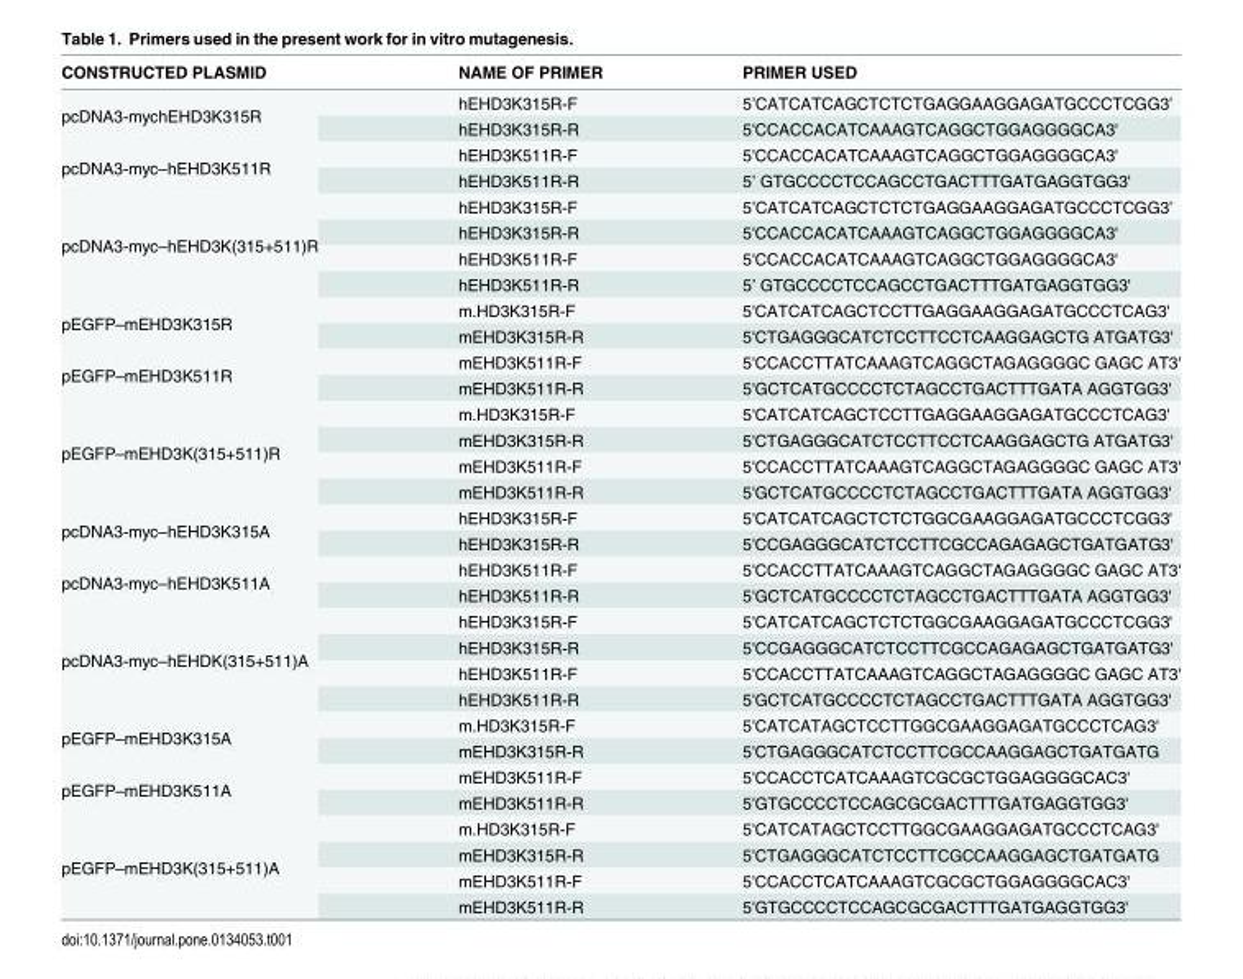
<table><thead><tr><td>CONSTRUCTED PLASMID</td><td>NAME OF PRIMER</td><td>PRIMER USED</td></tr></thead><tbody><tr><td rowspan="2">pcDNA3-mychEHD3K315R</td><td>hEHD3K315R-F</td><td>5’CATCATCAGCTCTCTGAGGAAGGAGATGCCCTCGG3’</td></tr><tr><td>hEHD3K315R-R</td><td>5&#x27;CCACCACATCAAAGTCAGGCTGGAGGGGCA3&#x27;</td></tr><tr><td rowspan="2">pcDNA3-myc–hEHD3K511R</td><td>hEHD3K511R-F</td><td>5&#x27;CCACCACATCAAAGTCAGGCTGGAGGGGCA3&#x27;</td></tr><tr><td>hEHD3K511R-R</td><td>5’ GTGCCCCTCCAGCCTGACTTTGATGAGGTGG3&#x27;</td></tr><tr><td rowspan="4">pcDNA3-myc–hEHD3K(315+511)R</td><td>hEHD3K315R-F</td><td>5’CATCATCAGCTCTCTGAGGAAGGAGATGCCCTCGG3’</td></tr><tr><td>hEHD3K315R-R</td><td>5&#x27;CCACCACATCAAAGTCAGGCTGGAGGGGCA3&#x27;</td></tr><tr><td>hEHD3K511R-F</td><td>5&#x27;CCACCACATCAAAGTCAGGCTGGAGGGGCA3&#x27;</td></tr><tr><td>hEHD3K511R-R</td><td>5’ GTGCCCCTCCAGCCTGACTTTGATGAGGTGG3&#x27;</td></tr><tr><td rowspan="2">pEGFP–mEHD3K315R</td><td>m.HD3K315R-F</td><td>5&#x27;CATCATCAGCTCCTTGAGGAAGGAGATGCCCTCAG3&#x27;</td></tr><tr><td>mEHD3K315R-R</td><td>5&#x27;CTGAGGGCATCTCCTTCCTCAAGGAGCTG ATGATG3&#x27;</td></tr><tr><td rowspan="2">pEGFP–mEHD3K511R</td><td>mEHD3K511R-F</td><td>5&#x27;CCACCTTATCAAAGTCAGGCTAGAGGGGC GAGC AT3&#x27;</td></tr><tr><td>mEHD3K511R-R</td><td>5&#x27;GCTCATGCCCCTCTAGCCTGACTTTGATA AGGTGG3&#x27;</td></tr><tr><td rowspan="4">pEGFP–mEHD3K(315+511)R</td><td>m.HD3K315R-F</td><td>5&#x27;CATCATCAGCTCCTTGAGGAAGGAGATGCCCTCAG3&#x27;</td></tr><tr><td>mEHD3K315R-R</td><td>5&#x27;CTGAGGGCATCTCCTTCCTCAAGGAGCTG ATGATG3&#x27;</td></tr><tr><td>mEHD3K511R-F</td><td>5&#x27;CCACCTTATCAAAGTCAGGCTAGAGGGGC GAGC AT3&#x27;</td></tr><tr><td>mEHD3K511R-R</td><td>5&#x27;GCTCATGCCCCTCTAGCCTGACTTTGATA AGGTGG3&#x27;</td></tr><tr><td rowspan="2">pcDNA3-myc–hEHD3K315A</td><td>hEHD3K315R-F</td><td>5&#x27;CATCATCAGCTCTCTGGCGAAGGAGATGCCCTCGG3&#x27;</td></tr><tr><td>hEHD3K315R-R</td><td>5&#x27;CCGAGGGCATCTCCTTCGCCAGAGAGCTGATGATG3&#x27;</td></tr><tr><td rowspan="2">pcDNA3-myc–hEHD3K511A</td><td>hEHD3K511R-F</td><td>5&#x27;CCACCTTATCAAAGTCAGGCTAGAGGGGC GAGC AT3&#x27;</td></tr><tr><td>hEHD3K511R-R</td><td>5&#x27;GCTCATGCCCCTCTAGCCTGACTTTGATA AGGTGG3&#x27;</td></tr><tr><td rowspan="4">pcDNA3-myc–hEHDK(315+511)A</td><td>hEHD3K315R-F</td><td>5&#x27;CATCATCAGCTCTCTGGCGAAGGAGATGCCCTCGG3&#x27;</td></tr><tr><td>hEHD3K315R-R</td><td>5&#x27;CCGAGGGCATCTCCTTCGCCAGAGAGCTGATGATG3&#x27;</td></tr><tr><td>hEHD3K511R-F</td><td>5&#x27;CCACCTTATCAAAGTCAGGCTAGAGGGGC GAGC AT3&#x27;</td></tr><tr><td>hEHD3K511R-R</td><td>5&#x27;GCTCATGCCCCTCTAGCCTGACTTTGATA AGGTGG3&#x27;</td></tr><tr><td rowspan="2">pEGFP–mEHD3K315A</td><td>m.HD3K315R-F</td><td>5&#x27;CATCATAGCTCCTTGGCGAAGGAGATGCCCTCAG3&#x27;</td></tr><tr><td>mEHD3K315R-R</td><td>5&#x27;CTGAGGGCATCTCCTTCGCCAAGGAGCTGATGATG</td></tr><tr><td rowspan="2">pEGFP–mEHD3K511A</td><td>mEHD3K511R-F</td><td>5&#x27;CCACCTCATCAAAGTCGCGCTGGAGGGGCAC3&#x27;</td></tr><tr><td>mEHD3K511R-R</td><td>5&#x27;GTGCCCCTCCAGCGCGACTTTGATGAGGTGG3&#x27;</td></tr><tr><td rowspan="4">pEGFP–mEHD3K(315+511)A</td><td>m.HD3K315R-F</td><td>5&#x27;CATCATAGCTCCTTGGCGAAGGAGATGCCCTCAG3&#x27;</td></tr><tr><td>mEHD3K315R-R</td><td>5&#x27;CTGAGGGCATCTCCTTCGCCAAGGAGCTGATGATG</td></tr><tr><td>mEHD3K511R-F</td><td>5&#x27;CCACCTCATCAAAGTCGCGCTGGAGGGGCAC3&#x27;</td></tr><tr><td>mEHD3K511R-R</td><td>5&#x27;GTGCCCCTCCAGCGCGACTTTGATGAGGTGG3&#x27;</td></tr></tbody></table>